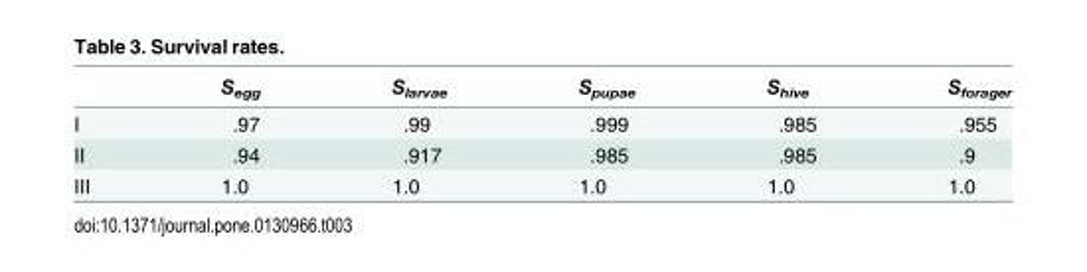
<table><thead><tr><td></td><td>S<sub>egg</sub></td><td>S<sub>larvae</sub></td><td>S<sub>pupae</sub></td><td>S<sub>hive</sub></td><td>S<sub>forager</sub></td></tr></thead><tbody><tr><td>I</td><td>.97</td><td>.99</td><td>.999</td><td>.985</td><td>.955</td></tr><tr><td>II</td><td>.94</td><td>.917</td><td>.985</td><td>.985</td><td>.9</td></tr><tr><td>III</td><td>1.0</td><td>1.0</td><td>1.0</td><td>1.0</td><td>1.0</td></tr></tbody></table>